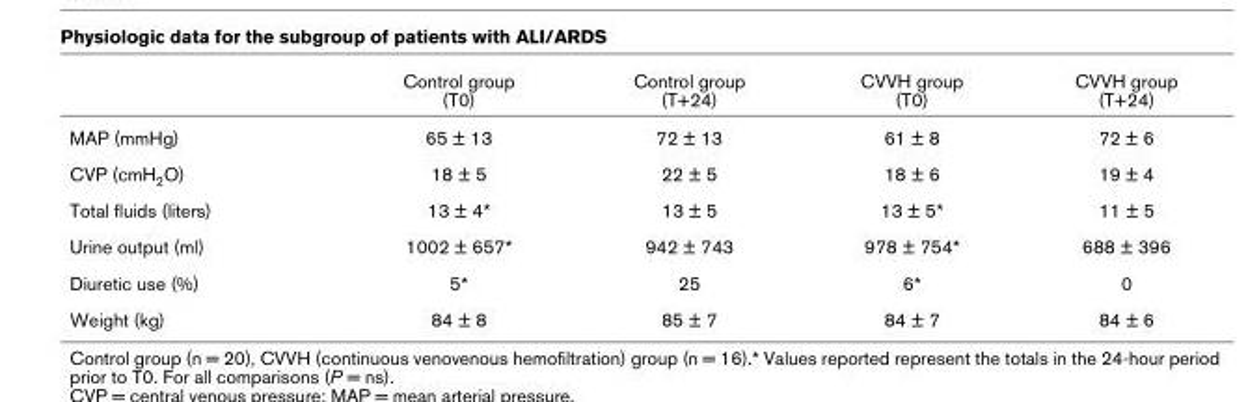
<table><thead><tr><td></td><td>Control group (T0)</td><td>Control group (T+24)</td><td>CVVH group (T0)</td><td>CVVH group (T+24)</td></tr></thead><tbody><tr><td>MAP (mmHg)</td><td>65 ± 13</td><td>72 ± 13</td><td>61 ± 8</td><td>72 ± 6</td></tr><tr><td>CVP (cmH<sub>2</sub>O)</td><td>18 ± 5</td><td>22 ± 5</td><td>18 ± 6</td><td>19 ± 4</td></tr><tr><td>Total fluids (liters)</td><td>13 ± 4*</td><td>13 ± 5</td><td>13 ± 5*</td><td>11 ± 5</td></tr><tr><td>Urine output (ml)</td><td>1002 ± 657*</td><td>942 ± 743</td><td>978 ± 754*</td><td>688 ± 396</td></tr><tr><td>Diuretic use (%)</td><td>5*</td><td>25</td><td>6*</td><td>0</td></tr><tr><td>Weight (kg)</td><td>84 ± 8</td><td>85 ± 7</td><td>84 ± 7</td><td>84 ± 6</td></tr></tbody></table>